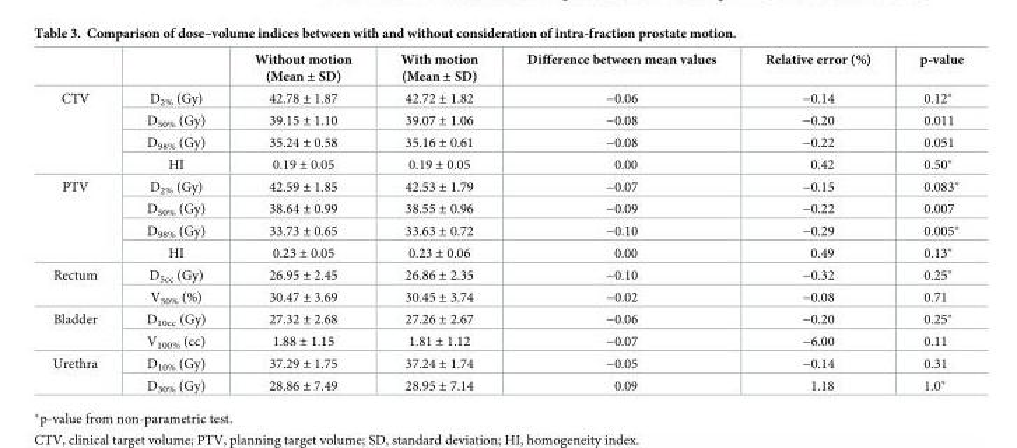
<table><thead><tr><td></td><td></td><td>Without motion (Mean ± SD)</td><td>With motion (Mean ± SD)</td><td>Difference between mean values</td><td>Relative error (%)</td><td>p-value</td></tr></thead><tbody><tr><td rowspan="4">CTV</td><td>D<sub>2%</sub> (Gy)</td><td>42.78 ± 1.87</td><td>42.72 ± 1.82</td><td>−0.06</td><td>−0.14</td><td>0.12*</td></tr><tr><td>D<sub>50%</sub> (Gy)</td><td>39.15 ± 1.10</td><td>39.07 ± 1.06</td><td>−0.08</td><td>−0.20</td><td>0.011</td></tr><tr><td>D<sub>98%</sub> (Gy)</td><td>35.24 ± 0.58</td><td>35.16 ± 0.61</td><td>−0.08</td><td>−0.22</td><td>0.051</td></tr><tr><td>HI</td><td>0.19 ± 0.05</td><td>0.19 ± 0.05</td><td>0.00</td><td>0.42</td><td>0.50*</td></tr><tr><td rowspan="4">PTV</td><td>D<sub>2%</sub> (Gy)</td><td>42.59 ± 1.85</td><td>42.53 ± 1.79</td><td>−0.07</td><td>−0.15</td><td>0.083*</td></tr><tr><td>D<sub>50%</sub> (Gy)</td><td>38.64 ± 0.99</td><td>38.55 ± 0.96</td><td>−0.09</td><td>−0.22</td><td>0.007</td></tr><tr><td>D<sub>98%</sub> (Gy)</td><td>33.73 ± 0.65</td><td>33.63 ± 0.72</td><td>−0.10</td><td>−0.29</td><td>0.005*</td></tr><tr><td>HI</td><td>0.23 ± 0.05</td><td>0.23 ± 0.06</td><td>0.00</td><td>0.49</td><td>0.13*</td></tr><tr><td rowspan="2">Rectum</td><td>D<sub>5cc</sub> (Gy)</td><td>26.95 ± 2.45</td><td>26.86 ± 2.35</td><td>−0.10</td><td>−0.32</td><td>0.25*</td></tr><tr><td>V<sub>50%</sub> (%)</td><td>30.47 ± 3.69</td><td>30.45 ± 3.74</td><td>−0.02</td><td>−0.08</td><td>0.71</td></tr><tr><td rowspan="2">Bladder</td><td>D<sub>10cc</sub> (Gy)</td><td>27.32 ± 2.68</td><td>27.26 ± 2.67</td><td>−0.06</td><td>−0.20</td><td>0.25*</td></tr><tr><td>V<sub>100%</sub> (cc)</td><td>1.88 ± 1.15</td><td>1.81 ± 1.12</td><td>−0.07</td><td>−6.00</td><td>0.11</td></tr><tr><td rowspan="2">Urethra</td><td>D<sub>10%</sub> (Gy)</td><td>37.29 ± 1.75</td><td>37.24 ± 1.74</td><td>−0.05</td><td>−0.14</td><td>0.31</td></tr><tr><td>D<sub>30%</sub> (Gy)</td><td>28.86 ± 7.49</td><td>28.95 ± 7.14</td><td>0.09</td><td>1.18</td><td>1.0*</td></tr></tbody></table>